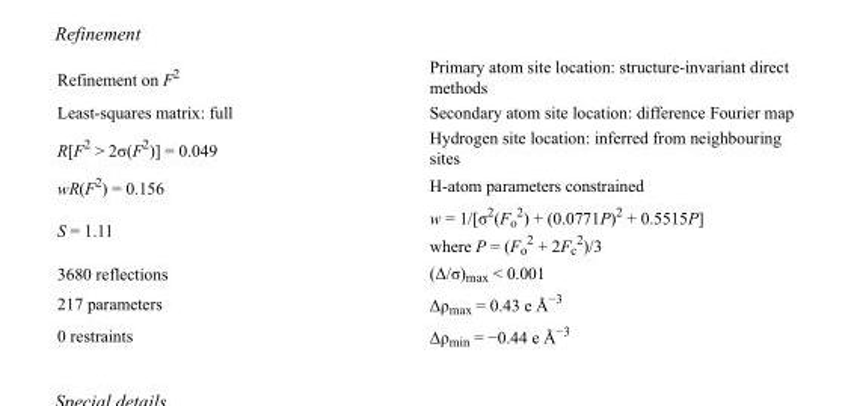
<table><tbody><tr><td>Refinement on F<sup>2</sup></td><td>Primary atom site location: structure-invariant direct methods</td></tr><tr><td>Least-squares matrix: full</td><td>Secondary atom site location: difference Fourier map</td></tr><tr><td>R[F<sup>2</sup> &gt; 2σ(F<sup>2</sup>)] = 0.049</td><td>Hydrogen site location: inferred from neighbouring sites</td></tr><tr><td>wR(F<sup>2</sup>) = 0.156</td><td>H-atom parameters constrained</td></tr><tr><td>S = 1.11</td><td>w = 1/[σ<sup>2</sup>(F<sub>o</sub> <sup>2</sup>) + (0.0771P)<sup>2</sup> + 0.5515P] where P = (F<sub>o</sub> <sup>2</sup> + 2F<sub>c</sub> <sup>2</sup>)/3</td></tr><tr><td>3680 reflections</td><td>(Δ/σ)<sub>max</sub> &lt; 0.001</td></tr><tr><td>217 parameters</td><td>Δρ<sub>max</sub> = 0.43 e Å<sup>−3</sup></td></tr><tr><td>0 restraints</td><td>Δρ<sub>min</sub> = −0.44 e Å<sup>−3</sup></td></tr></tbody></table>